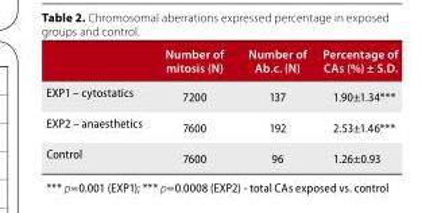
<table><thead><tr><td></td><td>Number of mitosis (N)</td><td>Number of Ab.c. (N)</td><td>Percentage of CAs (%) ± S.D.</td></tr></thead><tbody><tr><td>EXP1 – cytostatics</td><td>7200</td><td>137</td><td>1.90±1.34***</td></tr><tr><td>EXP2 – anaesthetics</td><td>7600</td><td>192</td><td>2.53±1.46***</td></tr><tr><td>Control</td><td>7600</td><td>96</td><td>1.26±0.93</td></tr></tbody></table>